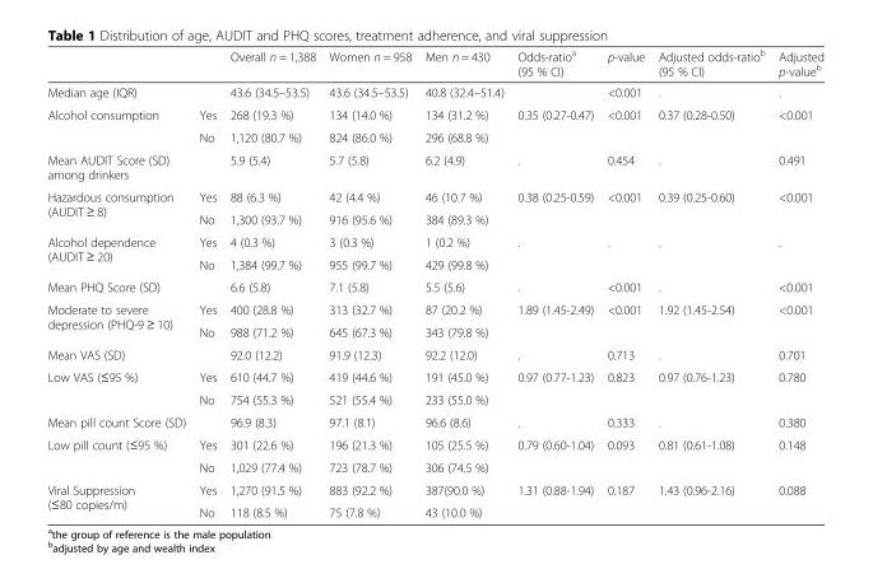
<table><thead><tr><td></td><td></td><td>Overall n = 1,388</td><td>Women n = 958</td><td>Men n = 430</td><td>Odds-ratio<sup>a</sup> (95 % CI)</td><td>p-value</td><td>Adjusted odds-ratio<sup>b</sup> (95 % CI)</td><td>Adjusted p-value<sup>b</sup></td></tr></thead><tbody><tr><td>Median age (IQR)</td><td></td><td>43.6 (34.5–53.5)</td><td>43.6 (34.5–53.5)</td><td>40.8 (32.4–51.4)</td><td></td><td>&lt;0.001</td><td>.</td><td>.</td></tr><tr><td rowspan="2">Alcohol consumption</td><td>Yes</td><td>268 (19.3 %)</td><td>134 (14.0 %)</td><td>134 (31.2 %)</td><td>0.35 (0.27-0.47)</td><td>&lt;0.001</td><td>0.37 (0.28-0.50)</td><td>&lt;0.001</td></tr><tr><td>No</td><td>1,120 (80.7 %)</td><td>824 (86.0 %)</td><td>296 (68.8 %)</td><td></td><td></td><td></td><td></td></tr><tr><td>Mean AUDIT Score (SD) among drinkers</td><td></td><td>5.9 (5.4)</td><td>5.7 (5.8)</td><td>6.2 (4.9)</td><td>.</td><td>0.454</td><td>.</td><td>0.491</td></tr><tr><td rowspan="2">Hazardous consumption (AUDIT ≥ 8)</td><td>Yes</td><td>88 (6.3 %)</td><td>42 (4.4 %)</td><td>46 (10.7 %)</td><td>0.38 (0.25-0.59)</td><td>&lt;0.001</td><td>0.39 (0.25-0.60)</td><td>&lt;0.001</td></tr><tr><td>No</td><td>1,300 (93.7 %)</td><td>916 (95.6 %)</td><td>384 (89.3 %)</td><td></td><td></td><td></td><td></td></tr><tr><td rowspan="2">Alcohol dependence (AUDIT ≥ 20)</td><td>Yes</td><td>4 (0.3 %)</td><td>3 (0.3 %)</td><td>1 (0.2 %)</td><td>.</td><td>.</td><td>.</td><td>.</td></tr><tr><td>No</td><td>1,384 (99.7 %)</td><td>955 (99.7 %)</td><td>429 (99.8 %)</td><td></td><td></td><td></td><td></td></tr><tr><td>Mean PHQ Score (SD)</td><td></td><td>6.6 (5.8)</td><td>7.1 (5.8)</td><td>5.5 (5.6)</td><td>.</td><td>&lt;0.001</td><td>.</td><td>&lt;0.001</td></tr><tr><td rowspan="2">Moderate to severe depression (PHQ-9 ≥ 10)</td><td>Yes</td><td>400 (28.8 %)</td><td>313 (32.7 %)</td><td>87 (20.2 %)</td><td>1.89 (1.45-2.49)</td><td>&lt;0.001</td><td>1.92 (1.45-2.54)</td><td>&lt;0.001</td></tr><tr><td>No</td><td>988 (71.2 %)</td><td>645 (67.3 %)</td><td>343 (79.8 %)</td><td></td><td></td><td></td><td></td></tr><tr><td>Mean VAS (SD)</td><td></td><td>92.0 (12.2)</td><td>91.9 (12.3)</td><td>92.2 (12.0)</td><td>.</td><td>0.713</td><td>.</td><td>0.701</td></tr><tr><td rowspan="2">Low VAS (≤95 %)</td><td>Yes</td><td>610 (44.7 %)</td><td>419 (44.6 %)</td><td>191 (45.0 %)</td><td>0.97 (0.77-1.23)</td><td>0.823</td><td>0.97 (0.76-1.23)</td><td>0.780</td></tr><tr><td>No</td><td>754 (55.3 %)</td><td>521 (55.4 %)</td><td>233 (55.0 %)</td><td></td><td></td><td></td><td></td></tr><tr><td>Mean pill count Score (SD)</td><td></td><td>96.9 (8.3)</td><td>97.1 (8.1)</td><td>96.6 (8.6)</td><td>.</td><td>0.333</td><td>.</td><td>0.380</td></tr><tr><td rowspan="2">Low pill count (≤95 %)</td><td>Yes</td><td>301 (22.6 %)</td><td>196 (21.3 %)</td><td>105 (25.5 %)</td><td>0.79 (0.60-1.04)</td><td>0.093</td><td>0.81 (0.61-1.08)</td><td>0.148</td></tr><tr><td>No</td><td>1,029 (77.4 %)</td><td>723 (78.7 %)</td><td>306 (74.5 %)</td><td></td><td></td><td></td><td></td></tr><tr><td rowspan="2">Viral Suppression (≤80 copies/m)</td><td>Yes</td><td>1,270 (91.5 %)</td><td>883 (92.2 %)</td><td>387(90.0 %)</td><td>1.31 (0.88-1.94)</td><td>0.187</td><td>1.43 (0.96-2.16)</td><td>0.088</td></tr><tr><td>No</td><td>118 (8.5 %)</td><td>75 (7.8 %)</td><td>43 (10.0 %)</td><td></td><td></td><td></td><td></td></tr></tbody></table>